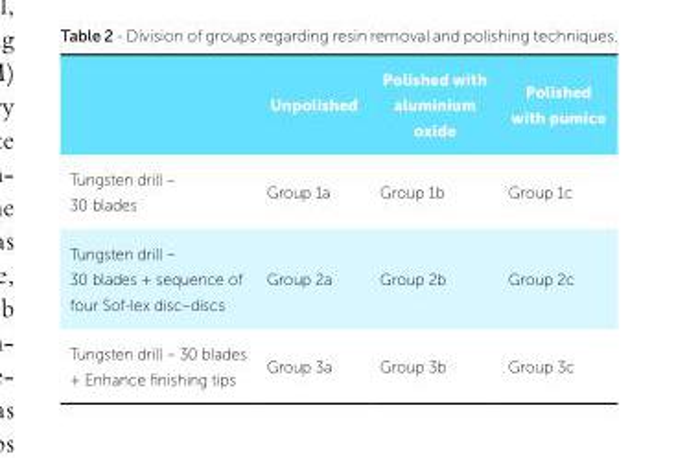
<table><thead><tr><td></td><td>Unpolished</td><td>Polished with aluminium oxide</td><td>Polished with pumice</td></tr></thead><tbody><tr><td>Tungsten drill – 30 blades</td><td>Group 1a</td><td>Group 1b</td><td>Group 1c</td></tr><tr><td>Tungsten drill – 30 blades + sequence of four Sof-lex disc–discs</td><td>Group 2a</td><td>Group 2b</td><td>Group 2c</td></tr><tr><td>Tungsten drill – 30 blades + Enhance finishing tips</td><td>Group 3a</td><td>Group 3b</td><td>Group 3c</td></tr></tbody></table>